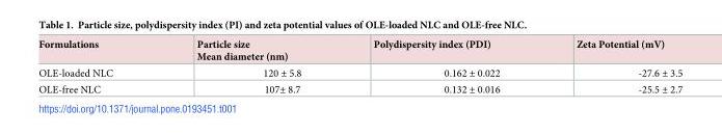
<table><thead><tr><td>Formulations</td><td>Particle size Mean diameter (nm)</td><td>Polydispersity index (PDI)</td><td>Zeta Potential (mV)</td></tr></thead><tbody><tr><td>OLE-loaded NLC</td><td>120 ± 5.8</td><td>0.162 ± 0.022</td><td>-27.6 ± 3.5</td></tr><tr><td>OLE-free NLC</td><td>107± 8.7</td><td>0.132 ± 0.016</td><td>-25.5 ± 2.7</td></tr></tbody></table>